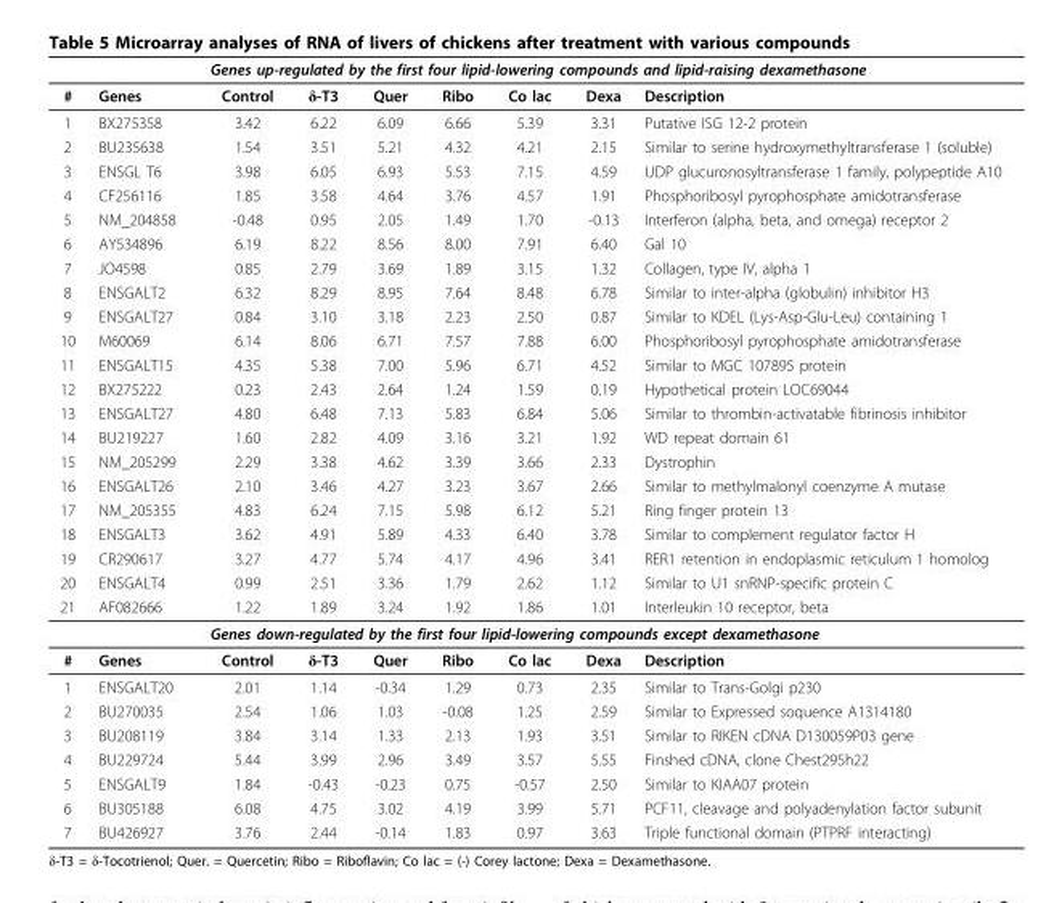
<table><thead><tr><td rowspan="2">#</td><td rowspan="2">Genes</td><td colspan="7">Genes up-regulated by the first four lipid-lowering compounds and lipid-raising dexamethasone</td></tr><tr><td>Control</td><td>δ-T3</td><td>Quer</td><td>Ribo</td><td>Co lac</td><td>Dexa</td><td>Description</td></tr></thead><tbody><tr><td>1</td><td>BX275358</td><td>3.42</td><td>6.22</td><td>6.09</td><td>6.66</td><td>5.39</td><td>3.31</td><td>Putative ISG 12-2 protein</td></tr><tr><td>2</td><td>BU235638</td><td>1.54</td><td>3.51</td><td>5.21</td><td>4.32</td><td>4.21</td><td>2.15</td><td>Similar to serine hydroxymethyltransferase 1 (soluble)</td></tr><tr><td>3</td><td>ENSGL T6</td><td>3.98</td><td>6.05</td><td>6.93</td><td>5.53</td><td>7.15</td><td>4.59</td><td>UDP glucuronosyltransferase 1 family, polypeptide A10</td></tr><tr><td>4</td><td>CF256116</td><td>1.85</td><td>3.58</td><td>4.64</td><td>3.76</td><td>4.57</td><td>1.91</td><td>Phosphoribosyl pyrophosphate amidotransferase</td></tr><tr><td>5</td><td>NM_204858</td><td>-0.48</td><td>0.95</td><td>2.05</td><td>1.49</td><td>1.70</td><td>-0.13</td><td>Interferon (alpha, beta, and omega) receptor 2</td></tr><tr><td>6</td><td>AY534896</td><td>6.19</td><td>8.22</td><td>8.56</td><td>8.00</td><td>7.91</td><td>6.40</td><td>Gal 10</td></tr><tr><td>7</td><td>JO4598</td><td>0.85</td><td>2.79</td><td>3.69</td><td>1.89</td><td>3.15</td><td>1.32</td><td>Collagen, type IV, alpha 1</td></tr><tr><td>8</td><td>ENSGALT2</td><td>6.32</td><td>8.29</td><td>8.95</td><td>7.64</td><td>8.48</td><td>6.78</td><td>Similar to inter-alpha (globulin) inhibitor H3</td></tr><tr><td>9</td><td>ENSGALT27</td><td>0.84</td><td>3.10</td><td>3.18</td><td>2.23</td><td>2.50</td><td>0.87</td><td>Similar to KDEL (Lys-Asp-Glu-Leu) containing 1</td></tr><tr><td>10</td><td>M60069</td><td>6.14</td><td>8.06</td><td>6.71</td><td>7.57</td><td>7.88</td><td>6.00</td><td>Phosphoribosyl pyrophosphate amidotransferase</td></tr><tr><td>11</td><td>ENSGALT15</td><td>4.35</td><td>5.38</td><td>7.00</td><td>5.96</td><td>6.71</td><td>4.52</td><td>Similar to MGC 107895 protein</td></tr><tr><td>12</td><td>BX275222</td><td>0.23</td><td>2.43</td><td>2.64</td><td>1.24</td><td>1.59</td><td>0.19</td><td>Hypothetical protein LOC69044</td></tr><tr><td>13</td><td>ENSGALT27</td><td>4.80</td><td>6.48</td><td>7.13</td><td>5.83</td><td>6.84</td><td>5.06</td><td>Similar to thrombin-activatable fibrinosis inhibitor</td></tr><tr><td>14</td><td>BU219227</td><td>1.60</td><td>2.82</td><td>4.09</td><td>3.16</td><td>3.21</td><td>1.92</td><td>WD repeat domain 61</td></tr><tr><td>15</td><td>NM_205299</td><td>2.29</td><td>3.38</td><td>4.62</td><td>3.39</td><td>3.66</td><td>2.33</td><td>Dystrophin</td></tr><tr><td>16</td><td>ENSGALT26</td><td>2.10</td><td>3.46</td><td>4.27</td><td>3.23</td><td>3.67</td><td>2.66</td><td>Similar to methylmalonyl coenzyme A mutase</td></tr><tr><td>17</td><td>NM_205355</td><td>4.83</td><td>6.24</td><td>7.15</td><td>5.98</td><td>6.12</td><td>5.21</td><td>Ring finger protein 13</td></tr><tr><td>18</td><td>ENSGALT3</td><td>3.62</td><td>4.91</td><td>5.89</td><td>4.33</td><td>6.40</td><td>3.78</td><td>Similar to complement regulator factor H</td></tr><tr><td>19</td><td>CR290617</td><td>3.27</td><td>4.77</td><td>5.74</td><td>4.17</td><td>4.96</td><td>3.41</td><td>RER1 retention in endoplasmic reticulum 1 homolog</td></tr><tr><td>20</td><td>ENSGALT4</td><td>0.99</td><td>2.51</td><td>3.36</td><td>1.79</td><td>2.62</td><td>1.12</td><td>Similar to U1 snRNP-specific protein C</td></tr><tr><td rowspan="2">21</td><td>AF082666</td><td>1.22</td><td>1.89</td><td>3.24</td><td>1.92</td><td>1.86</td><td>1.01</td><td>Interleukin 10 receptor, beta</td></tr><tr><td></td><td colspan="7">Genes down-regulated by the first four lipid-lowering compounds except dexamethasone</td></tr><tr><td>#</td><td>Genes</td><td>Control</td><td>δ-T3</td><td>Quer</td><td>Ribo</td><td>Co lac</td><td>Dexa</td><td>Description</td></tr><tr><td>1</td><td>ENSGALT20</td><td>2.01</td><td>1.14</td><td>-0.34</td><td>1.29</td><td>0.73</td><td>2.35</td><td>Similar to Trans-Golgi p230</td></tr><tr><td>2</td><td>BU270035</td><td>2.54</td><td>1.06</td><td>1.03</td><td>-0.08</td><td>1.25</td><td>2.59</td><td>Similar to Expressed soquence A1314180</td></tr><tr><td>3</td><td>BU208119</td><td>3.84</td><td>3.14</td><td>1.33</td><td>2.13</td><td>1.93</td><td>3.51</td><td>Similar to RIKEN cDNA D130059P03 gene</td></tr><tr><td>4</td><td>BU229724</td><td>5.44</td><td>3.99</td><td>2.96</td><td>3.49</td><td>3.57</td><td>5.55</td><td>Finshed cDNA, clone Chest295h22</td></tr><tr><td>5</td><td>ENSGALT9</td><td>1.84</td><td>-0.43</td><td>-0.23</td><td>0.75</td><td>-0.57</td><td>2.50</td><td>Similar to KIAA07 protein</td></tr><tr><td>6</td><td>BU305188</td><td>6.08</td><td>4.75</td><td>3.02</td><td>4.19</td><td>3.99</td><td>5.71</td><td>PCF11, cleavage and polyadenylation factor subunit</td></tr><tr><td>7</td><td>BU426927</td><td>3.76</td><td>2.44</td><td>-0.14</td><td>1.83</td><td>0.97</td><td>3.63</td><td>Triple functional domain (PTPRF interacting)</td></tr></tbody></table>